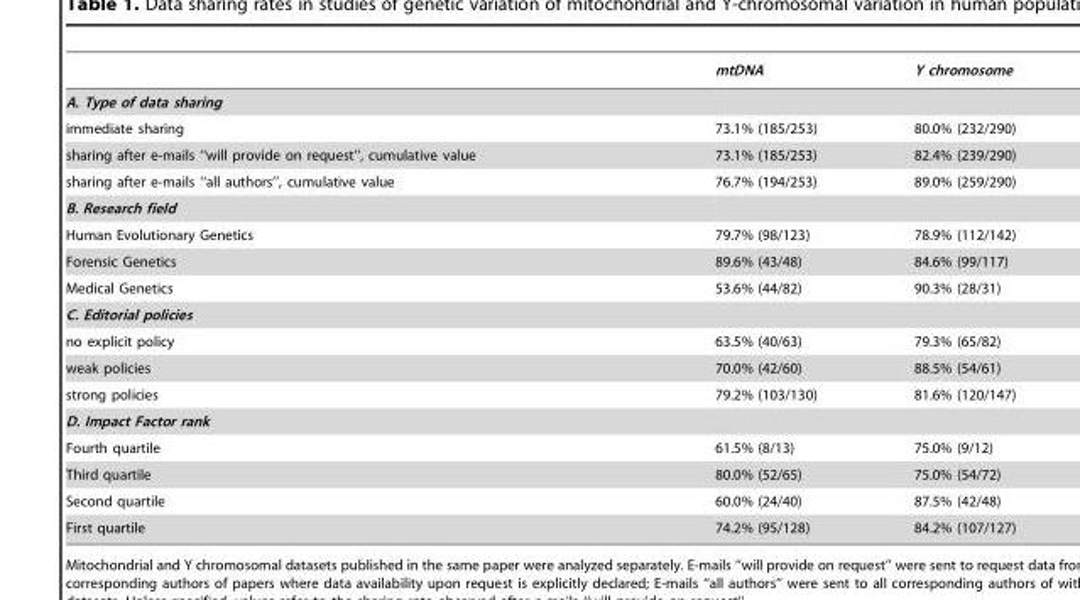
<table><thead><tr><td></td><td>mtDNA</td><td>Y chromosome</td></tr></thead><tbody><tr><td colspan="3">A. Type of data sharing</td></tr><tr><td>immediate sharing</td><td>73.1% (185/253)</td><td>80.0% (232/290)</td></tr><tr><td>sharing after e-mails ‘‘will provide on request’’, cumulative value</td><td>73.1% (185/253)</td><td>82.4% (239/290)</td></tr><tr><td>sharing after e-mails ‘‘all authors’’, cumulative value</td><td>76.7% (194/253)</td><td>89.0% (259/290)</td></tr><tr><td colspan="3">B. Research field</td></tr><tr><td>Human Evolutionary Genetics</td><td>79.7% (98/123)</td><td>78.9% (112/142)</td></tr><tr><td>Forensic Genetics</td><td>89.6% (43/48)</td><td>84.6% (99/117)</td></tr><tr><td>Medical Genetics</td><td>53.6% (44/82)</td><td>90.3% (28/31)</td></tr><tr><td colspan="3">C. Editorial policies</td></tr><tr><td>no explicit policy</td><td>63.5% (40/63)</td><td>79.3% (65/82)</td></tr><tr><td>weak policies</td><td>70.0% (42/60)</td><td>88.5% (54/61)</td></tr><tr><td>strong policies</td><td>79.2% (103/130)</td><td>81.6% (120/147)</td></tr><tr><td colspan="3">D. Impact Factor rank</td></tr><tr><td>Fourth quartile</td><td>61.5% (8/13)</td><td>75.0% (9/12)</td></tr><tr><td>Third quartile</td><td>80.0% (52/65)</td><td>75.0% (54/72)</td></tr><tr><td>Second quartile</td><td>60.0% (24/40)</td><td>87.5% (42/48)</td></tr><tr><td>First quartile</td><td>74.2% (95/128)</td><td>84.2% (107/127)</td></tr></tbody></table>